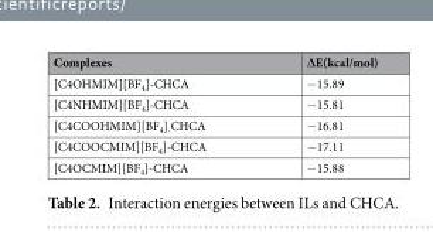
<table><thead><tr><td>Complexes</td><td>∆E(kcal/mol)</td></tr></thead><tbody><tr><td>[C4OHMIM][BF<sub>4</sub>]-CHCA</td><td>−15.89</td></tr><tr><td>[C4NHMIM][BF<sub>4</sub>]-CHCA</td><td>−15.81</td></tr><tr><td>[C4COOHMIM][BF<sub>4</sub>]<sub>-</sub>CHCA</td><td>−16.81</td></tr><tr><td>[C4COOCMIM][BF<sub>4</sub>]-CHCA</td><td>−17.11</td></tr><tr><td>[C4OCMIM][BF<sub>4</sub>]-CHCA</td><td>−15.88</td></tr></tbody></table>